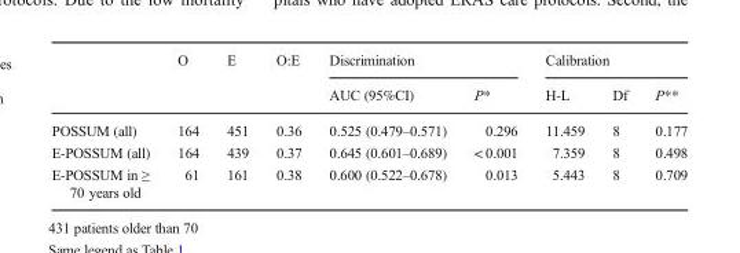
<table><thead><tr><td rowspan="2"></td><td rowspan="2">O</td><td rowspan="2">E</td><td rowspan="2">O:E</td><td colspan="2">Discrimination</td><td colspan="3">Calibration</td></tr><tr><td>AUC (95%CI)</td><td>P*</td><td>H-L</td><td>Df</td><td>P**</td></tr></thead><tbody><tr><td>POSSUM (all)</td><td>164</td><td>451</td><td>0.36</td><td>0.525 (0.479–0.571)</td><td>0.296</td><td>11.459</td><td>8</td><td>0.177</td></tr><tr><td>E-POSSUM (all)</td><td>164</td><td>439</td><td>0.37</td><td>0.645 (0.601–0.689)</td><td>&lt; 0.001</td><td>7.359</td><td>8</td><td>0.498</td></tr><tr><td>E-POSSUM in ≥ 70 years old</td><td>61</td><td>161</td><td>0.38</td><td>0.600 (0.522–0.678)</td><td>0.013</td><td>5.443</td><td>8</td><td>0.709</td></tr></tbody></table>